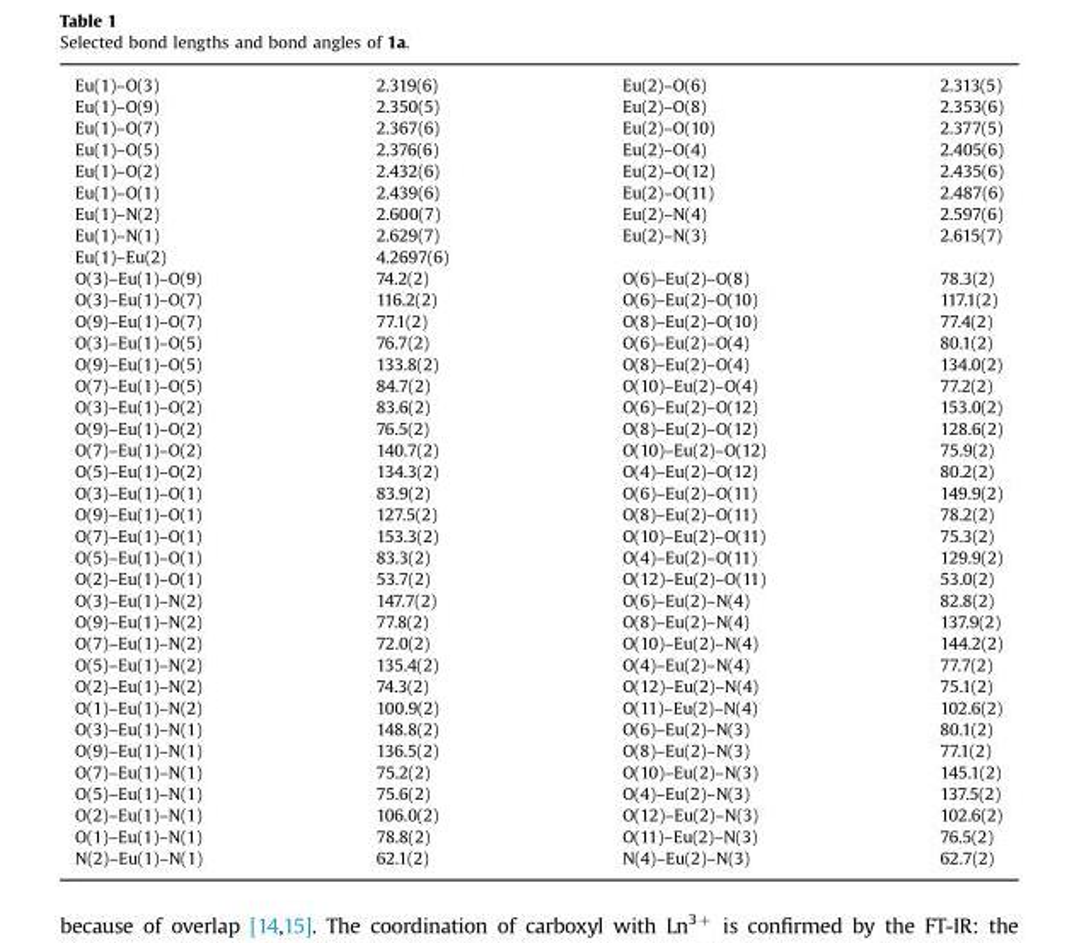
<table><tbody><tr><td>Eu(1)–O(3)</td><td>2.319(6)</td><td>Eu(2)–O(6)</td><td>2.313(5)</td></tr><tr><td>Eu(1)–O(9)</td><td>2.350(5)</td><td>Eu(2)–O(8)</td><td>2.353(6)</td></tr><tr><td>Eu(1)–O(7)</td><td>2.367(6)</td><td>Eu(2)–O(10)</td><td>2.377(5)</td></tr><tr><td>Eu(1)–O(5)</td><td>2.376(6)</td><td>Eu(2)–O(4)</td><td>2.405(6)</td></tr><tr><td>Eu(1)–O(2)</td><td>2.432(6)</td><td>Eu(2)–O(12)</td><td>2.435(6)</td></tr><tr><td>Eu(1)–O(1)</td><td>2.439(6)</td><td>Eu(2)–O(11)</td><td>2.487(6)</td></tr><tr><td>Eu(1)–N(2)</td><td>2.600(7)</td><td>Eu(2)–N(4)</td><td>2.597(6)</td></tr><tr><td>Eu(1)–N(1)</td><td>2.629(7)</td><td>Eu(2)–N(3)</td><td>2.615(7)</td></tr><tr><td>Eu(1)–Eu(2)</td><td>4.2697(6)</td><td></td><td></td></tr><tr><td>O(3)–Eu(1)–O(9)</td><td>74.2(2)</td><td>O(6)–Eu(2)–O(8)</td><td>78.3(2)</td></tr><tr><td>O(3)–Eu(1)–O(7)</td><td>116.2(2)</td><td>O(6)–Eu(2)–O(10)</td><td>117.1(2)</td></tr><tr><td>O(9)–Eu(1)–O(7)</td><td>77.1(2)</td><td>O(8)–Eu(2)–O(10)</td><td>77.4(2)</td></tr><tr><td>O(3)–Eu(1)–O(5)</td><td>76.7(2)</td><td>O(6)–Eu(2)–O(4)</td><td>80.1(2)</td></tr><tr><td>O(9)–Eu(1)–O(5)</td><td>133.8(2)</td><td>O(8)–Eu(2)–O(4)</td><td>134.0(2)</td></tr><tr><td>O(7)–Eu(1)–O(5)</td><td>84.7(2)</td><td>O(10)–Eu(2)–O(4)</td><td>77.2(2)</td></tr><tr><td>O(3)–Eu(1)–O(2)</td><td>83.6(2)</td><td>O(6)–Eu(2)–O(12)</td><td>153.0(2)</td></tr><tr><td>O(9)–Eu(1)–O(2)</td><td>76.5(2)</td><td>O(8)–Eu(2)–O(12)</td><td>128.6(2)</td></tr><tr><td>O(7)–Eu(1)–O(2)</td><td>140.7(2)</td><td>O(10)–Eu(2)–O(12)</td><td>75.9(2)</td></tr><tr><td>O(5)–Eu(1)–O(2)</td><td>134.3(2)</td><td>O(4)–Eu(2)–O(12)</td><td>80.2(2)</td></tr><tr><td>O(3)–Eu(1)–O(1)</td><td>83.9(2)</td><td>O(6)–Eu(2)–O(11)</td><td>149.9(2)</td></tr><tr><td>O(9)–Eu(1)–O(1)</td><td>127.5(2)</td><td>O(8)–Eu(2)–O(11)</td><td>78.2(2)</td></tr><tr><td>O(7)–Eu(1)–O(1)</td><td>153.3(2)</td><td>O(10)–Eu(2)–O(11)</td><td>75.3(2)</td></tr><tr><td>O(5)–Eu(1)–O(1)</td><td>83.3(2)</td><td>O(4)–Eu(2)–O(11)</td><td>129.9(2)</td></tr><tr><td>O(2)–Eu(1)–O(1)</td><td>53.7(2)</td><td>O(12)–Eu(2)–O(11)</td><td>53.0(2)</td></tr><tr><td>O(3)–Eu(1)–N(2)</td><td>147.7(2)</td><td>O(6)–Eu(2)–N(4)</td><td>82.8(2)</td></tr><tr><td>O(9)–Eu(1)–N(2)</td><td>77.8(2)</td><td>O(8)–Eu(2)–N(4)</td><td>137.9(2)</td></tr><tr><td>O(7)–Eu(1)–N(2)</td><td>72.0(2)</td><td>O(10)–Eu(2)–N(4)</td><td>144.2(2)</td></tr><tr><td>O(5)–Eu(1)–N(2)</td><td>135.4(2)</td><td>O(4)–Eu(2)–N(4)</td><td>77.7(2)</td></tr><tr><td>O(2)–Eu(1)–N(2)</td><td>74.3(2)</td><td>O(12)–Eu(2)–N(4)</td><td>75.1(2)</td></tr><tr><td>O(1)–Eu(1)–N(2)</td><td>100.9(2)</td><td>O(11)–Eu(2)–N(4)</td><td>102.6(2)</td></tr><tr><td>O(3)–Eu(1)–N(1)</td><td>148.8(2)</td><td>O(6)–Eu(2)–N(3)</td><td>80.1(2)</td></tr><tr><td>O(9)–Eu(1)–N(1)</td><td>136.5(2)</td><td>O(8)–Eu(2)–N(3)</td><td>77.1(2)</td></tr><tr><td>O(7)–Eu(1)–N(1)</td><td>75.2(2)</td><td>O(10)–Eu(2)–N(3)</td><td>145.1(2)</td></tr><tr><td>O(5)–Eu(1)–N(1)</td><td>75.6(2)</td><td>O(4)–Eu(2)–N(3)</td><td>137.5(2)</td></tr><tr><td>O(2)–Eu(1)–N(1)</td><td>106.0(2)</td><td>O(12)–Eu(2)–N(3)</td><td>102.6(2)</td></tr><tr><td>O(1)–Eu(1)–N(1)</td><td>78.8(2)</td><td>O(11)–Eu(2)–N(3)</td><td>76.5(2)</td></tr><tr><td>N(2)–Eu(1)–N(1)</td><td>62.1(2)</td><td>N(4)–Eu(2)–N(3)</td><td>62.7(2)</td></tr></tbody></table>